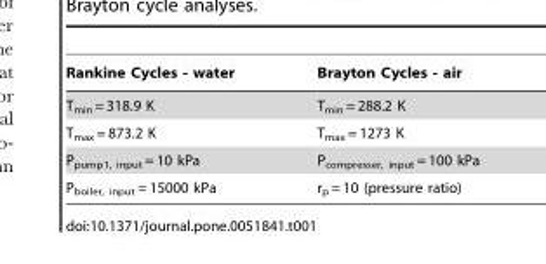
<table><thead><tr><td>Rankine Cycles - water</td><td>Brayton Cycles - air</td></tr></thead><tbody><tr><td>T<sub>min</sub> = 318.9 K</td><td>T<sub>min</sub> = 288.2 K</td></tr><tr><td>T<sub>max</sub> = 873.2 K</td><td>T<sub>max</sub> = 1273 K</td></tr><tr><td>P<sub>pump1, input</sub> = 10 kPa</td><td>P<sub>compresser, input</sub> = 100 kPa</td></tr><tr><td>P<sub>boiler, input</sub> = 15000 kPa</td><td>r<sub>p</sub> = 10 (pressure ratio)</td></tr></tbody></table>